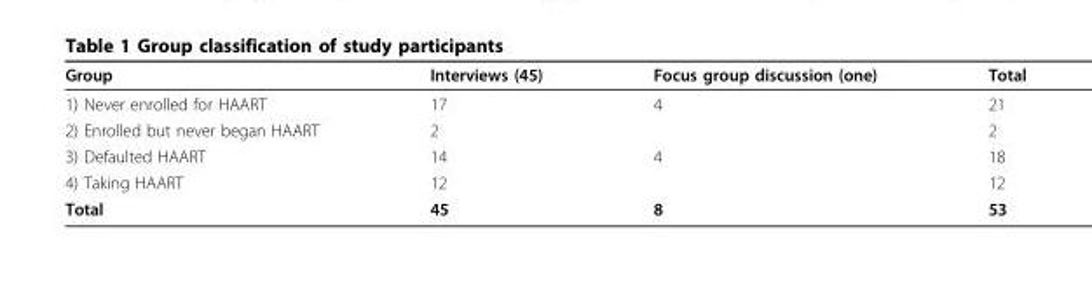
<table><thead><tr><td>Group</td><td>Interviews (45)</td><td>Focus group discussion (one)</td><td>Total</td></tr></thead><tbody><tr><td>1) Never enrolled for HAART</td><td>17</td><td>4</td><td>21</td></tr><tr><td>2) Enrolled but never began HAART</td><td>2</td><td></td><td>2</td></tr><tr><td>3) Defaulted HAART</td><td>14</td><td>4</td><td>18</td></tr><tr><td>4) Taking HAART</td><td>12</td><td></td><td>12</td></tr><tr><td>Total</td><td>45</td><td>8</td><td>53</td></tr></tbody></table>